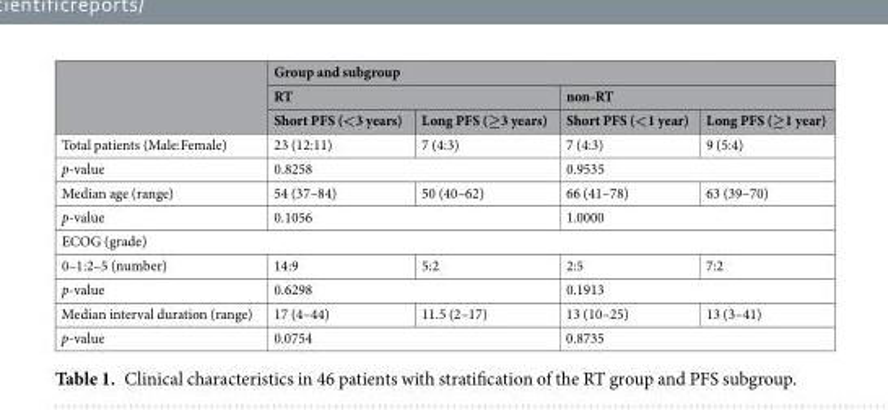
<table><thead><tr><td rowspan="3"></td><td colspan="4">Group and subgroup</td></tr><tr><td colspan="2">RT</td><td colspan="2">non-RT</td></tr><tr><td>Short PFS (&lt;3 years)</td><td>Long PFS (≥3 years)</td><td>Short PFS (&lt;1 year)</td><td>Long PFS (≥1 year)</td></tr></thead><tbody><tr><td>Total patients (Male:Female)</td><td>23 (12:11)</td><td>7 (4:3)</td><td>7 (4:3)</td><td>9 (5:4)</td></tr><tr><td>p-value</td><td colspan="2">0.8258</td><td colspan="2">0.9535</td></tr><tr><td>Median age (range)</td><td>54 (37–84)</td><td>50 (40–62)</td><td>66 (41–78)</td><td>63 (39–70)</td></tr><tr><td>p-value</td><td colspan="2">0.1056</td><td colspan="2">1.0000</td></tr><tr><td colspan="5">ECOG (grade)</td></tr><tr><td>0–1:2–5 (number)</td><td>14:9</td><td>5:2</td><td>2:5</td><td>7:2</td></tr><tr><td>p-value</td><td colspan="2">0.6298</td><td colspan="2">0.1913</td></tr><tr><td>Median interval duration (range)</td><td>17 (4–44)</td><td>11.5 (2–17)</td><td>13 (10–25)</td><td>13 (3–41)</td></tr><tr><td>p-value</td><td colspan="2">0.0754</td><td colspan="2">0.8735</td></tr></tbody></table>